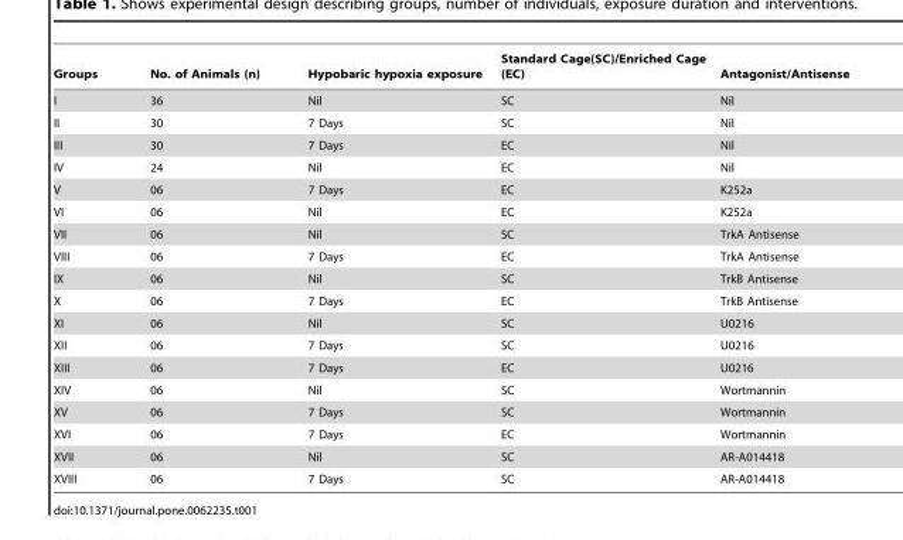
<table><thead><tr><td>Groups</td><td>No. of Animals (n)</td><td>Hypobaric hypoxia exposure</td><td>Standard Cage(SC)/Enriched Cage (EC)</td><td>Antagonist/Antisense</td></tr></thead><tbody><tr><td>I</td><td>36</td><td>Nil</td><td>SC</td><td>Nil</td></tr><tr><td>II</td><td>30</td><td>7 Days</td><td>SC</td><td>Nil</td></tr><tr><td>III</td><td>30</td><td>7 Days</td><td>EC</td><td>Nil</td></tr><tr><td>IV</td><td>24</td><td>Nil</td><td>EC</td><td>Nil</td></tr><tr><td>V</td><td>06</td><td>7 Days</td><td>EC</td><td>K252a</td></tr><tr><td>VI</td><td>06</td><td>Nil</td><td>EC</td><td>K252a</td></tr><tr><td>VII</td><td>06</td><td>Nil</td><td>SC</td><td>TrkA Antisense</td></tr><tr><td>VIII</td><td>06</td><td>7 Days</td><td>EC</td><td>TrkA Antisense</td></tr><tr><td>IX</td><td>06</td><td>Nil</td><td>SC</td><td>TrkB Antisense</td></tr><tr><td>X</td><td>06</td><td>7 Days</td><td>EC</td><td>TrkB Antisense</td></tr><tr><td>XI</td><td>06</td><td>Nil</td><td>SC</td><td>U0216</td></tr><tr><td>XII</td><td>06</td><td>7 Days</td><td>SC</td><td>U0216</td></tr><tr><td>XIII</td><td>06</td><td>7 Days</td><td>EC</td><td>U0216</td></tr><tr><td>XIV</td><td>06</td><td>Nil</td><td>SC</td><td>Wortmannin</td></tr><tr><td>XV</td><td>06</td><td>7 Days</td><td>SC</td><td>Wortmannin</td></tr><tr><td>XVI</td><td>06</td><td>7 Days</td><td>EC</td><td>Wortmannin</td></tr><tr><td>XVII</td><td>06</td><td>Nil</td><td>SC</td><td>AR-A014418</td></tr><tr><td>XVIII</td><td>06</td><td>7 Days</td><td>SC</td><td>AR-A014418</td></tr></tbody></table>